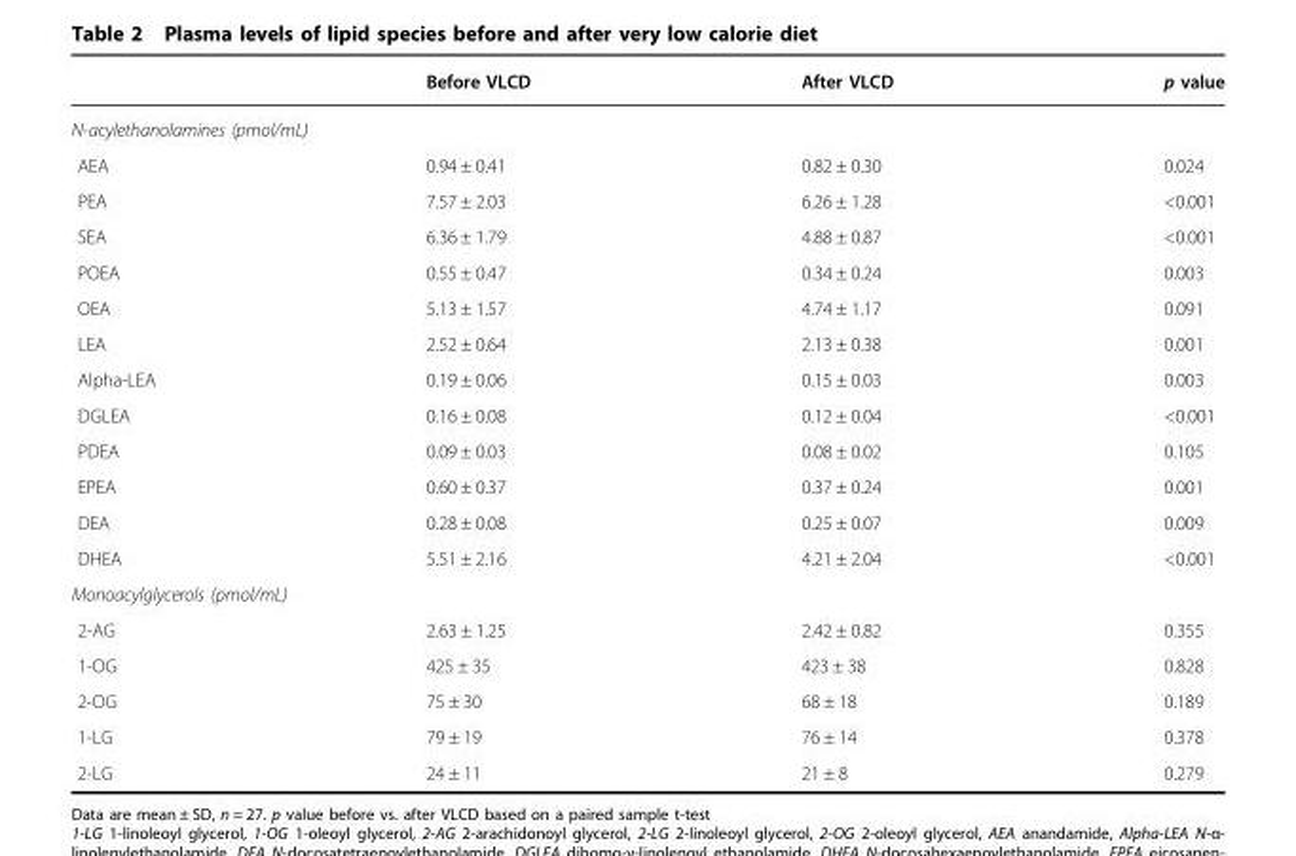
<table><thead><tr><td></td><td>Before VLCD</td><td>After VLCD</td><td>p value</td></tr></thead><tbody><tr><td colspan="4">N-acylethanolamines (pmol/mL)</td></tr><tr><td>AEA</td><td>0.94 ± 0.41</td><td>0.82 ± 0.30</td><td>0.024</td></tr><tr><td>PEA</td><td>7.57 ± 2.03</td><td>6.26 ± 1.28</td><td>&lt;0.001</td></tr><tr><td>SEA</td><td>6.36 ± 1.79</td><td>4.88 ± 0.87</td><td>&lt;0.001</td></tr><tr><td>POEA</td><td>0.55 ± 0.47</td><td>0.34 ± 0.24</td><td>0.003</td></tr><tr><td>OEA</td><td>5.13 ± 1.57</td><td>4.74 ± 1.17</td><td>0.091</td></tr><tr><td>LEA</td><td>2.52 ± 0.64</td><td>2.13 ± 0.38</td><td>0.001</td></tr><tr><td>Alpha-LEA</td><td>0.19 ± 0.06</td><td>0.15 ± 0.03</td><td>0.003</td></tr><tr><td>DGLEA</td><td>0.16 ± 0.08</td><td>0.12 ± 0.04</td><td>&lt;0.001</td></tr><tr><td>PDEA</td><td>0.09 ± 0.03</td><td>0.08 ± 0.02</td><td>0.105</td></tr><tr><td>EPEA</td><td>0.60 ± 0.37</td><td>0.37 ± 0.24</td><td>0.001</td></tr><tr><td>DEA</td><td>0.28 ± 0.08</td><td>0.25 ± 0.07</td><td>0.009</td></tr><tr><td>DHEA</td><td>5.51 ± 2.16</td><td>4.21 ± 2.04</td><td>&lt;0.001</td></tr><tr><td colspan="4">Monoacylglycerols (pmol/mL)</td></tr><tr><td>2-AG</td><td>2.63 ± 1.25</td><td>2.42 ± 0.82</td><td>0.355</td></tr><tr><td>1-OG</td><td>425 ± 35</td><td>423 ± 38</td><td>0.828</td></tr><tr><td>2-OG</td><td>75 ± 30</td><td>68 ± 18</td><td>0.189</td></tr><tr><td>1-LG</td><td>79 ± 19</td><td>76 ± 14</td><td>0.378</td></tr><tr><td>2-LG</td><td>24 ± 11</td><td>21 ± 8</td><td>0.279</td></tr></tbody></table>